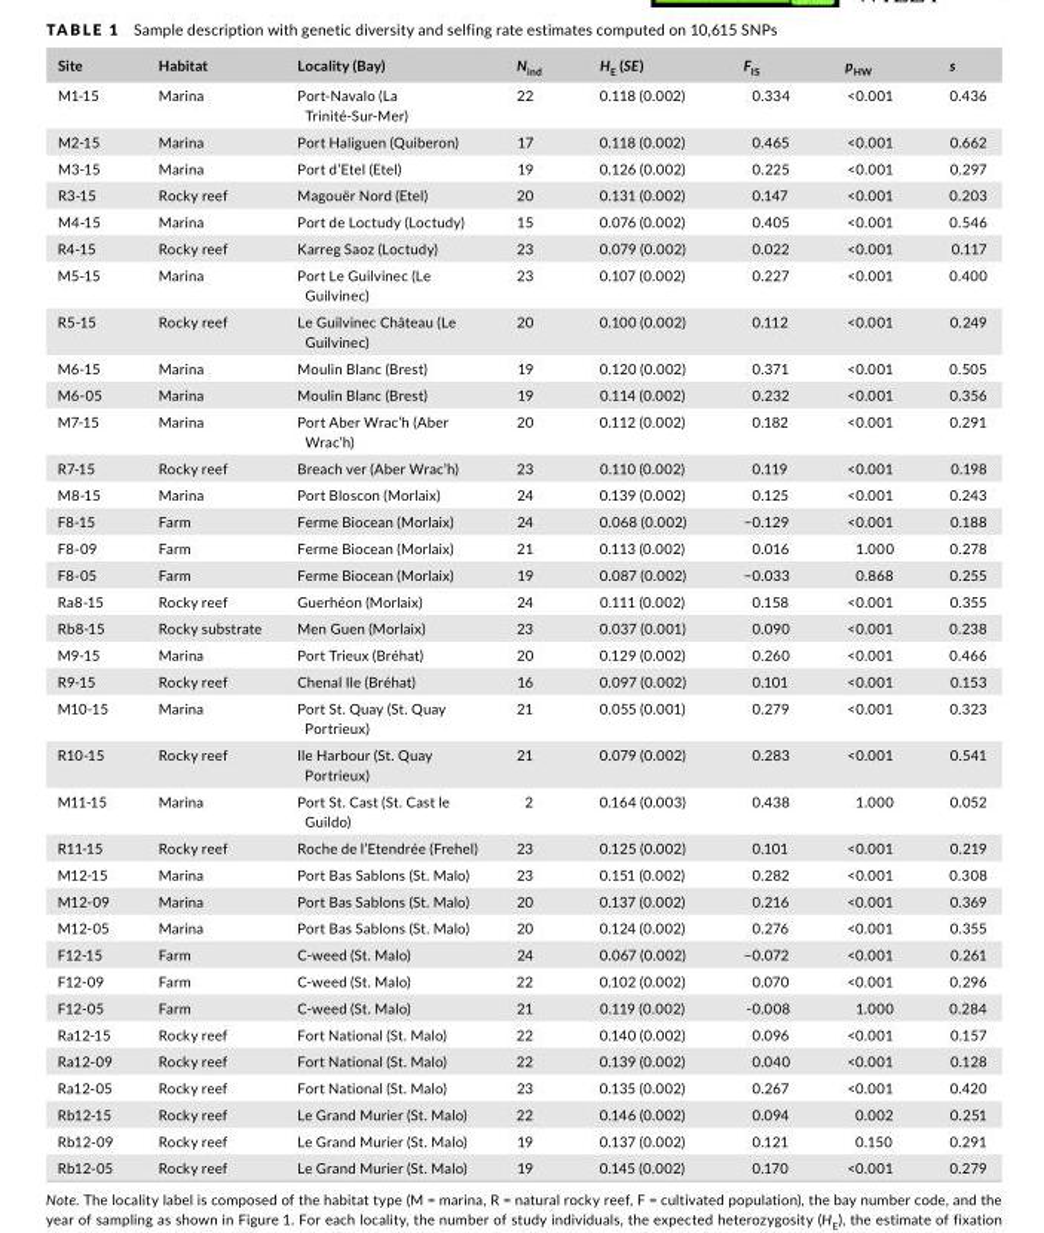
<table><thead><tr><td>Site</td><td>Habitat</td><td>Locality (Bay)</td><td>N<sub>ind</sub></td><td>H<sub>E</sub> (SE)</td><td>F<sub>IS</sub></td><td>p<sub>HW</sub></td><td>s</td></tr></thead><tbody><tr><td>M1- 15</td><td>Marina</td><td>Port- Navalo (La Trinité- Sur- Mer)</td><td>22</td><td>0.118 (0.002)</td><td>0.334</td><td>&lt;0.001</td><td>0.436</td></tr><tr><td>M2- 15</td><td>Marina</td><td>Port Haliguen (Quiberon)</td><td>17</td><td>0.118 (0.002)</td><td>0.465</td><td>&lt;0.001</td><td>0.662</td></tr><tr><td>M3- 15</td><td>Marina</td><td>Port d’Etel (Etel)</td><td>19</td><td>0.126 (0.002)</td><td>0.225</td><td>&lt;0.001</td><td>0.297</td></tr><tr><td>R3- 15</td><td>Rocky reef</td><td>Magouër Nord (Etel)</td><td>20</td><td>0.131 (0.002)</td><td>0.147</td><td>&lt;0.001</td><td>0.203</td></tr><tr><td>M4- 15</td><td>Marina</td><td>Port de Loctudy (Loctudy)</td><td>15</td><td>0.076 (0.002)</td><td>0.405</td><td>&lt;0.001</td><td>0.546</td></tr><tr><td>R4- 15</td><td>Rocky reef</td><td>Karreg Saoz (Loctudy)</td><td>23</td><td>0.079 (0.002)</td><td>0.022</td><td>&lt;0.001</td><td>0.117</td></tr><tr><td>M5- 15</td><td>Marina</td><td>Port Le Guilvinec (Le Guilvinec)</td><td>23</td><td>0.107 (0.002)</td><td>0.227</td><td>&lt;0.001</td><td>0.400</td></tr><tr><td>R5- 15</td><td>Rocky reef</td><td>Le Guilvinec Château (Le Guilvinec)</td><td>20</td><td>0.100 (0.002)</td><td>0.112</td><td>&lt;0.001</td><td>0.249</td></tr><tr><td>M6- 15</td><td>Marina</td><td>Moulin Blanc (Brest)</td><td>19</td><td>0.120 (0.002)</td><td>0.371</td><td>&lt;0.001</td><td>0.505</td></tr><tr><td>M6- 05</td><td>Marina</td><td>Moulin Blanc (Brest)</td><td>19</td><td>0.114 (0.002)</td><td>0.232</td><td>&lt;0.001</td><td>0.356</td></tr><tr><td>M7- 15</td><td>Marina</td><td>Port Aber Wrac’h (Aber Wrac’h)</td><td>20</td><td>0.112 (0.002)</td><td>0.182</td><td>&lt;0.001</td><td>0.291</td></tr><tr><td>R7- 15</td><td>Rocky reef</td><td>Breach ver (Aber Wrac’h)</td><td>23</td><td>0.110 (0.002)</td><td>0.119</td><td>&lt;0.001</td><td>0.198</td></tr><tr><td>M8- 15</td><td>Marina</td><td>Port Bloscon (Morlaix)</td><td>24</td><td>0.139 (0.002)</td><td>0.125</td><td>&lt;0.001</td><td>0.243</td></tr><tr><td>F8- 15</td><td>Farm</td><td>Ferme Biocean (Morlaix)</td><td>24</td><td>0.068 (0.002)</td><td>−0.129</td><td>&lt;0.001</td><td>0.188</td></tr><tr><td>F8- 09</td><td>Farm</td><td>Ferme Biocean (Morlaix)</td><td>21</td><td>0.113 (0.002)</td><td>0.016</td><td>1.000</td><td>0.278</td></tr><tr><td>F8- 05</td><td>Farm</td><td>Ferme Biocean (Morlaix)</td><td>19</td><td>0.087 (0.002)</td><td>−0.033</td><td>0.868</td><td>0.255</td></tr><tr><td>Ra8- 15</td><td>Rocky reef</td><td>Guerhéon (Morlaix)</td><td>24</td><td>0.111 (0.002)</td><td>0.158</td><td>&lt;0.001</td><td>0.355</td></tr><tr><td>Rb8- 15</td><td>Rocky substrate</td><td>Men Guen (Morlaix)</td><td>23</td><td>0.037 (0.001)</td><td>0.090</td><td>&lt;0.001</td><td>0.238</td></tr><tr><td>M9- 15</td><td>Marina</td><td>Port Trieux (Bréhat)</td><td>20</td><td>0.129 (0.002)</td><td>0.260</td><td>&lt;0.001</td><td>0.466</td></tr><tr><td>R9- 15</td><td>Rocky reef</td><td>Chenal Ile (Bréhat)</td><td>16</td><td>0.097 (0.002)</td><td>0.101</td><td>&lt;0.001</td><td>0.153</td></tr><tr><td>M10- 15</td><td>Marina</td><td>Port St. Quay (St. Quay Portrieux)</td><td>21</td><td>0.055 (0.001)</td><td>0.279</td><td>&lt;0.001</td><td>0.323</td></tr><tr><td>R10- 15</td><td>Rocky reef</td><td>Ile Harbour (St. Quay Portrieux)</td><td>21</td><td>0.079 (0.002)</td><td>0.283</td><td>&lt;0.001</td><td>0.541</td></tr><tr><td>M11- 15</td><td>Marina</td><td>Port St. Cast (St. Cast le Guildo)</td><td>2</td><td>0.164 (0.003)</td><td>0.438</td><td>1.000</td><td>0.052</td></tr><tr><td>R11- 15</td><td>Rocky reef</td><td>Roche de l’Etendrée (Frehel)</td><td>23</td><td>0.125 (0.002)</td><td>0.101</td><td>&lt;0.001</td><td>0.219</td></tr><tr><td>M12- 15</td><td>Marina</td><td>Port Bas Sablons (St. Malo)</td><td>23</td><td>0.151 (0.002)</td><td>0.282</td><td>&lt;0.001</td><td>0.308</td></tr><tr><td>M12- 09</td><td>Marina</td><td>Port Bas Sablons (St. Malo)</td><td>20</td><td>0.137 (0.002)</td><td>0.216</td><td>&lt;0.001</td><td>0.369</td></tr><tr><td>M12- 05</td><td>Marina</td><td>Port Bas Sablons (St. Malo)</td><td>20</td><td>0.124 (0.002)</td><td>0.276</td><td>&lt;0.001</td><td>0.355</td></tr><tr><td>F12- 15</td><td>Farm</td><td>C- weed (St. Malo)</td><td>24</td><td>0.067 (0.002)</td><td>−0.072</td><td>&lt;0.001</td><td>0.261</td></tr><tr><td>F12- 09</td><td>Farm</td><td>C- weed (St. Malo)</td><td>22</td><td>0.102 (0.002)</td><td>0.070</td><td>&lt;0.001</td><td>0.296</td></tr><tr><td>F12- 05</td><td>Farm</td><td>C- weed (St. Malo)</td><td>21</td><td>0.119 (0.002)</td><td>- 0.008</td><td>1.000</td><td>0.284</td></tr><tr><td>Ra12- 15</td><td>Rocky reef</td><td>Fort National (St. Malo)</td><td>22</td><td>0.140 (0.002)</td><td>0.096</td><td>&lt;0.001</td><td>0.157</td></tr><tr><td>Ra12- 09</td><td>Rocky reef</td><td>Fort National (St. Malo)</td><td>22</td><td>0.139 (0.002)</td><td>0.040</td><td>&lt;0.001</td><td>0.128</td></tr><tr><td>Ra12- 05</td><td>Rocky reef</td><td>Fort National (St. Malo)</td><td>23</td><td>0.135 (0.002)</td><td>0.267</td><td>&lt;0.001</td><td>0.420</td></tr><tr><td>Rb12- 15</td><td>Rocky reef</td><td>Le Grand Murier (St. Malo)</td><td>22</td><td>0.146 (0.002)</td><td>0.094</td><td>0.002</td><td>0.251</td></tr><tr><td>Rb12- 09</td><td>Rocky reef</td><td>Le Grand Murier (St. Malo)</td><td>19</td><td>0.137 (0.002)</td><td>0.121</td><td>0.150</td><td>0.291</td></tr><tr><td>Rb12- 05</td><td>Rocky reef</td><td>Le Grand Murier (St. Malo)</td><td>19</td><td>0.145 (0.002)</td><td>0.170</td><td>&lt;0.001</td><td>0.279</td></tr></tbody></table>